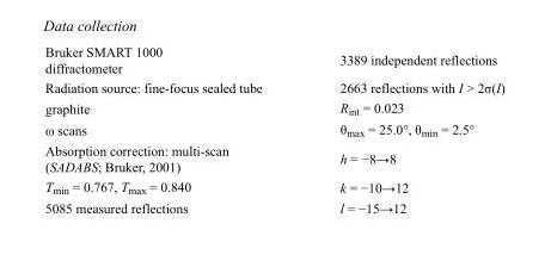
<table><tbody><tr><td>Bruker SMART 1000 diffractometer</td><td>3389 independent reflections</td></tr><tr><td>Radiation source: fine-focus sealed tube</td><td>2663 reflections with I &gt; 2σ(I)</td></tr><tr><td>graphite</td><td>R<sub>int</sub> = 0.023</td></tr><tr><td>ω scans</td><td>θ<sub>max</sub> = 25.0°, θ<sub>min</sub> = 2.5°</td></tr><tr><td>Absorption correction: multi-scan (SADABS; Bruker, 2001)</td><td>h = −8→8</td></tr><tr><td>T<sub>min</sub> = 0.767, T<sub>max</sub> = 0.840</td><td>k = −10→12</td></tr><tr><td>5085 measured reflections</td><td>l = −15→12</td></tr></tbody></table>